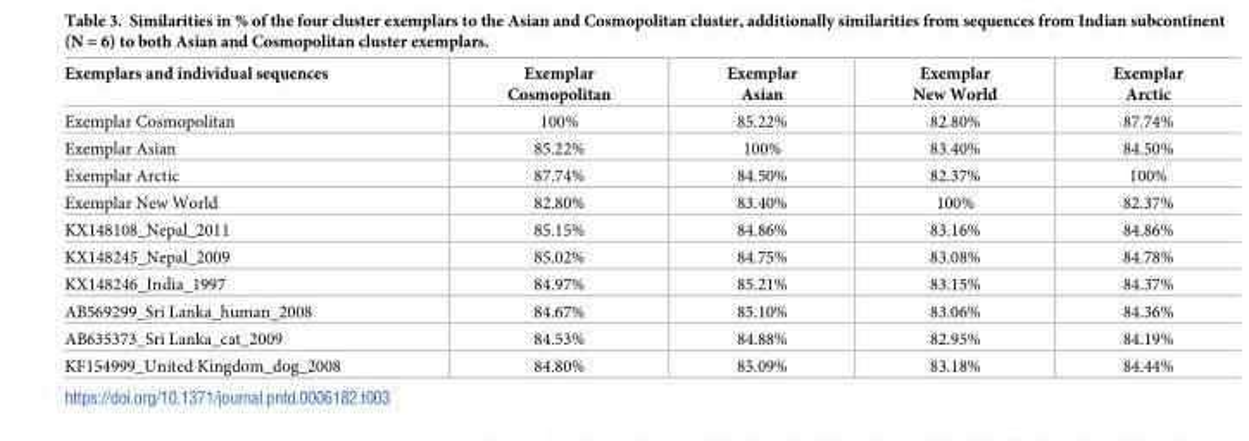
<table><thead><tr><td>Exemplars and individual sequences</td><td>Exemplar Cosmopolitan</td><td>Exemplar Asian</td><td>Exemplar New World</td><td>Exemplar Arctic</td></tr></thead><tbody><tr><td>Exemplar Cosmopolitan</td><td>100%</td><td>85.22%</td><td>82.80%</td><td>87.74%</td></tr><tr><td>Exemplar Asian</td><td>85.22%</td><td>100%</td><td>83.40%</td><td>84.50%</td></tr><tr><td>Exemplar Arctic</td><td>87.74%</td><td>84.50%</td><td>82.37%</td><td>100%</td></tr><tr><td>Exemplar New World</td><td>82.80%</td><td>83.40%</td><td>100%</td><td>82.37%</td></tr><tr><td>KX148108_Nepal_2011</td><td>85.15%</td><td>84.86%</td><td>83.16%</td><td>84.86%</td></tr><tr><td>KX148245_Nepal_2009</td><td>85.02%</td><td>84.75%</td><td>83.08%</td><td>84.78%</td></tr><tr><td>KX148246_India_1997</td><td>84.97%</td><td>85.21%</td><td>83.15%</td><td>84.37%</td></tr><tr><td>AB569299_Sri Lanka_human_2008</td><td>84.67%</td><td>85.10%</td><td>83.06%</td><td>84.36%</td></tr><tr><td>AB635373_Sri Lanka_cat_2009</td><td>84.53%</td><td>84.88%</td><td>82.95%</td><td>84.19%</td></tr><tr><td>KF154999_United Kingdom_dog_2008</td><td>84.80%</td><td>85.09%</td><td>83.18%</td><td>84.44%</td></tr></tbody></table>